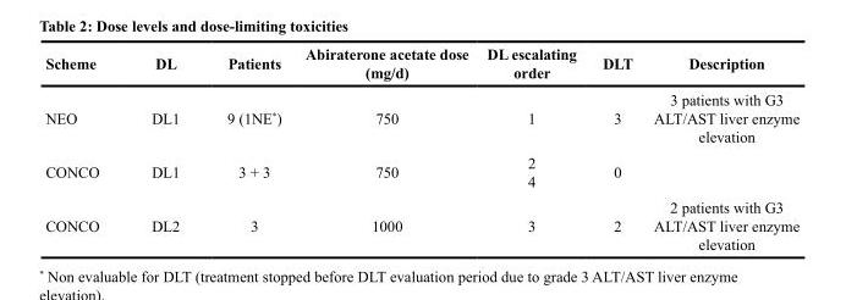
<table><thead><tr><td>Scheme</td><td>DL</td><td>Patients</td><td>Abiraterone acetate dose (mg/d)</td><td>DL escalating order</td><td>DLT</td><td>Description</td></tr></thead><tbody><tr><td>NEO</td><td>DL1</td><td>9 (1NE*)</td><td>750</td><td>1</td><td>3</td><td>3 patients with G3 ALT/AST liver enzyme elevation</td></tr><tr><td>CONCO</td><td>DL1</td><td>3 + 3</td><td>750</td><td>2 4</td><td>0</td><td></td></tr><tr><td>CONCO</td><td>DL2</td><td>3</td><td>1000</td><td>3</td><td>2</td><td>2 patients with G3 ALT/AST liver enzyme elevation</td></tr></tbody></table>